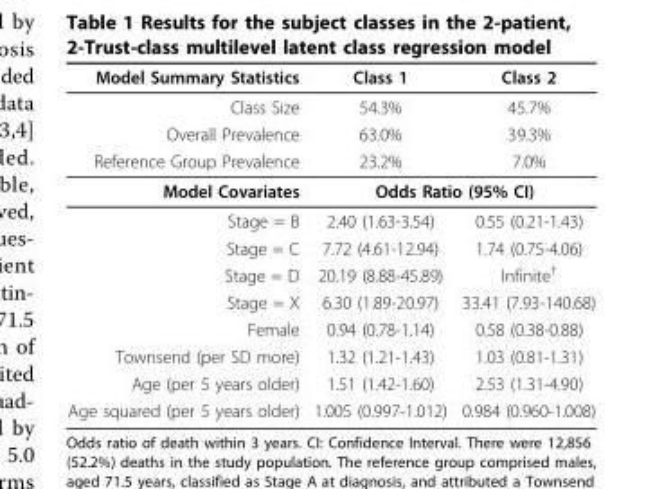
<table><thead><tr><td>Model Summary Statistics</td><td>Class 1</td><td>Class 2</td></tr></thead><tbody><tr><td>Class Size</td><td>54.3%</td><td>45.7%</td></tr><tr><td>Overall Prevalence</td><td>63.0%</td><td>39.3%</td></tr><tr><td>Reference Group Prevalence</td><td>23.2%</td><td>7.0%</td></tr><tr><td>Model Covariates</td><td colspan="2">Odds Ratio (95% CI)</td></tr><tr><td>Stage = B</td><td>2.40 (1.63-3.54)</td><td>0.55 (0.21-1.43)</td></tr><tr><td>Stage = C</td><td>7.72 (4.61-12.94)</td><td>1.74 (0.75-4.06)</td></tr><tr><td>Stage = D</td><td>20.19 (8.88-45.89)</td><td>Infinite<sup>†</sup></td></tr><tr><td>Stage = X</td><td>6.30 (1.89-20.97)</td><td>33.41 (7.93-140.68)</td></tr><tr><td>Female</td><td>0.94 (0.78-1.14)</td><td>0.58 (0.38-0.88)</td></tr><tr><td>Townsend (per SD more)</td><td>1.32 (1.21-1.43)</td><td>1.03 (0.81-1.31)</td></tr><tr><td>Age (per 5 years older)</td><td>1.51 (1.42-1.60)</td><td>2.53 (1.31-4.90)</td></tr><tr><td>Age squared (per 5 years older)</td><td>1.005 (0.997-1.012)</td><td>0.984 (0.960-1.008)</td></tr></tbody></table>